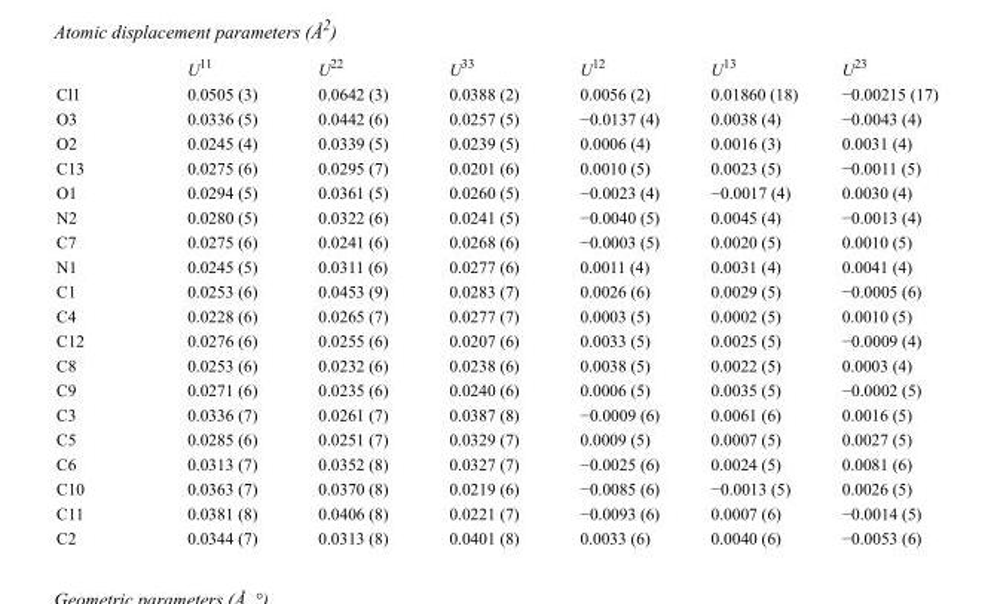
<table><thead><tr><td></td><td>U<sup>11</sup></td><td>U<sup>22</sup></td><td>U<sup>33</sup></td><td>U<sup>12</sup></td><td>U<sup>13</sup></td><td>U<sup>23</sup></td></tr></thead><tbody><tr><td>Cl1</td><td>0.0505 (3)</td><td>0.0642 (3)</td><td>0.0388 (2)</td><td>0.0056 (2)</td><td>0.01860 (18)</td><td>−0.00215 (17)</td></tr><tr><td>O3</td><td>0.0336 (5)</td><td>0.0442 (6)</td><td>0.0257 (5)</td><td>−0.0137 (4)</td><td>0.0038 (4)</td><td>−0.0043 (4)</td></tr><tr><td>O2</td><td>0.0245 (4)</td><td>0.0339 (5)</td><td>0.0239 (5)</td><td>0.0006 (4)</td><td>0.0016 (3)</td><td>0.0031 (4)</td></tr><tr><td>C13</td><td>0.0275 (6)</td><td>0.0295 (7)</td><td>0.0201 (6)</td><td>0.0010 (5)</td><td>0.0023 (5)</td><td>−0.0011 (5)</td></tr><tr><td>O1</td><td>0.0294 (5)</td><td>0.0361 (5)</td><td>0.0260 (5)</td><td>−0.0023 (4)</td><td>−0.0017 (4)</td><td>0.0030 (4)</td></tr><tr><td>N2</td><td>0.0280 (5)</td><td>0.0322 (6)</td><td>0.0241 (5)</td><td>−0.0040 (5)</td><td>0.0045 (4)</td><td>−0.0013 (4)</td></tr><tr><td>C7</td><td>0.0275 (6)</td><td>0.0241 (6)</td><td>0.0268 (6)</td><td>−0.0003 (5)</td><td>0.0020 (5)</td><td>0.0010 (5)</td></tr><tr><td>N1</td><td>0.0245 (5)</td><td>0.0311 (6)</td><td>0.0277 (6)</td><td>0.0011 (4)</td><td>0.0031 (4)</td><td>0.0041 (4)</td></tr><tr><td>C1</td><td>0.0253 (6)</td><td>0.0453 (9)</td><td>0.0283 (7)</td><td>0.0026 (6)</td><td>0.0029 (5)</td><td>−0.0005 (6)</td></tr><tr><td>C4</td><td>0.0228 (6)</td><td>0.0265 (7)</td><td>0.0277 (7)</td><td>0.0003 (5)</td><td>0.0002 (5)</td><td>0.0010 (5)</td></tr><tr><td>C12</td><td>0.0276 (6)</td><td>0.0255 (6)</td><td>0.0207 (6)</td><td>0.0033 (5)</td><td>0.0025 (5)</td><td>−0.0009 (4)</td></tr><tr><td>C8</td><td>0.0253 (6)</td><td>0.0232 (6)</td><td>0.0238 (6)</td><td>0.0038 (5)</td><td>0.0022 (5)</td><td>0.0003 (4)</td></tr><tr><td>C9</td><td>0.0271 (6)</td><td>0.0235 (6)</td><td>0.0240 (6)</td><td>0.0006 (5)</td><td>0.0035 (5)</td><td>−0.0002 (5)</td></tr><tr><td>C3</td><td>0.0336 (7)</td><td>0.0261 (7)</td><td>0.0387 (8)</td><td>−0.0009 (6)</td><td>0.0061 (6)</td><td>0.0016 (5)</td></tr><tr><td>C5</td><td>0.0285 (6)</td><td>0.0251 (7)</td><td>0.0329 (7)</td><td>0.0009 (5)</td><td>0.0007 (5)</td><td>0.0027 (5)</td></tr><tr><td>C6</td><td>0.0313 (7)</td><td>0.0352 (8)</td><td>0.0327 (7)</td><td>−0.0025 (6)</td><td>0.0024 (5)</td><td>0.0081 (6)</td></tr><tr><td>C10</td><td>0.0363 (7)</td><td>0.0370 (8)</td><td>0.0219 (6)</td><td>−0.0085 (6)</td><td>−0.0013 (5)</td><td>0.0026 (5)</td></tr><tr><td>C11</td><td>0.0381 (8)</td><td>0.0406 (8)</td><td>0.0221 (7)</td><td>−0.0093 (6)</td><td>0.0007 (6)</td><td>−0.0014 (5)</td></tr><tr><td>C2</td><td>0.0344 (7)</td><td>0.0313 (8)</td><td>0.0401 (8)</td><td>0.0033 (6)</td><td>0.0040 (6)</td><td>−0.0053 (6)</td></tr></tbody></table>